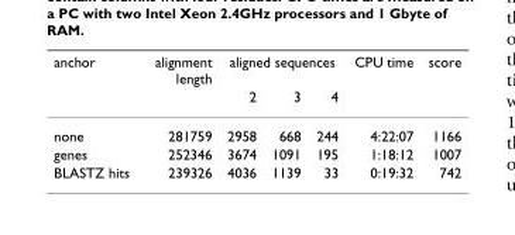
<table><thead><tr><td rowspan="2">anchor</td><td rowspan="2">alignment length</td><td colspan="3">aligned sequences</td><td rowspan="2">CPU time</td><td rowspan="2">score</td></tr><tr><td>2</td><td>3</td><td>4</td></tr></thead><tbody><tr><td>none</td><td>281759</td><td>2958</td><td>668</td><td>244</td><td>4:22:07</td><td>1166</td></tr><tr><td>genes</td><td>252346</td><td>3674</td><td>1091</td><td>195</td><td>1:18:12</td><td>1007</td></tr><tr><td>BLASTZ hits</td><td>239326</td><td>4036</td><td>1139</td><td>33</td><td>0:19:32</td><td>742</td></tr></tbody></table>